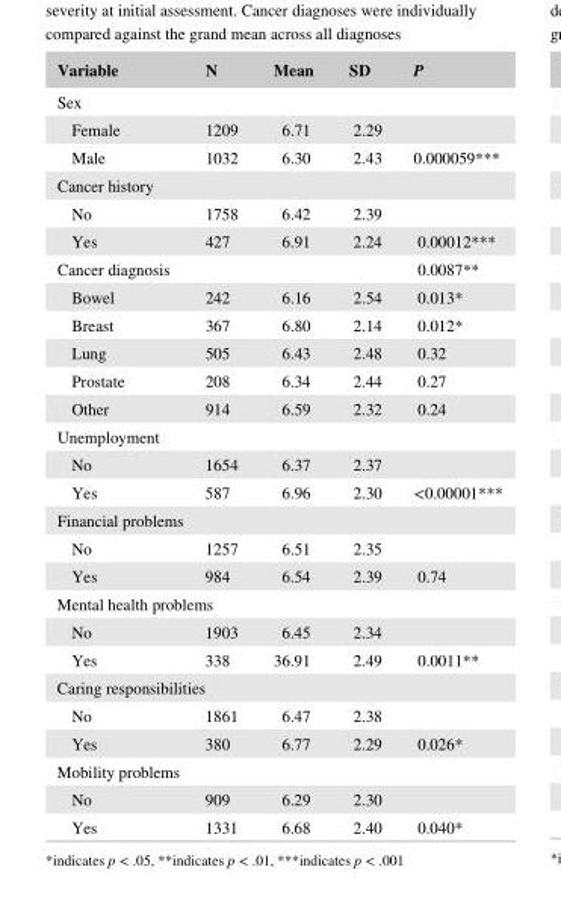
<table><thead><tr><td>Variable</td><td>N</td><td>Mean</td><td>SD</td><td>P</td></tr></thead><tbody><tr><td colspan="5">Sex</td></tr><tr><td>Female</td><td>1209</td><td>6.71</td><td>2.29</td><td></td></tr><tr><td>Male</td><td>1032</td><td>6.30</td><td>2.43</td><td>0.000059***</td></tr><tr><td colspan="5">Cancer history</td></tr><tr><td>No</td><td>1758</td><td>6.42</td><td>2.39</td><td></td></tr><tr><td>Yes</td><td>427</td><td>6.91</td><td>2.24</td><td>0.00012***</td></tr><tr><td>Cancer diagnosis</td><td></td><td></td><td></td><td>0.0087**</td></tr><tr><td>Bowel</td><td>242</td><td>6.16</td><td>2.54</td><td>0.013*</td></tr><tr><td>Breast</td><td>367</td><td>6.80</td><td>2.14</td><td>0.012*</td></tr><tr><td>Lung</td><td>505</td><td>6.43</td><td>2.48</td><td>0.32</td></tr><tr><td>Prostate</td><td>208</td><td>6.34</td><td>2.44</td><td>0.27</td></tr><tr><td>Other</td><td>914</td><td>6.59</td><td>2.32</td><td>0.24</td></tr><tr><td colspan="5">Unemployment</td></tr><tr><td>No</td><td>1654</td><td>6.37</td><td>2.37</td><td></td></tr><tr><td>Yes</td><td>587</td><td>6.96</td><td>2.30</td><td>&lt;0.00001***</td></tr><tr><td colspan="5">Financial problems</td></tr><tr><td>No</td><td>1257</td><td>6.51</td><td>2.35</td><td></td></tr><tr><td>Yes</td><td>984</td><td>6.54</td><td>2.39</td><td>0.74</td></tr><tr><td colspan="5">Mental health problems</td></tr><tr><td>No</td><td>1903</td><td>6.45</td><td>2.34</td><td></td></tr><tr><td>Yes</td><td>338</td><td>36.91</td><td>2.49</td><td>0.0011**</td></tr><tr><td colspan="5">Caring responsibilities</td></tr><tr><td>No</td><td>1861</td><td>6.47</td><td>2.38</td><td></td></tr><tr><td>Yes</td><td>380</td><td>6.77</td><td>2.29</td><td>0.026*</td></tr><tr><td colspan="5">Mobility problems</td></tr><tr><td>No</td><td>909</td><td>6.29</td><td>2.30</td><td></td></tr><tr><td>Yes</td><td>1331</td><td>6.68</td><td>2.40</td><td>0.040*</td></tr></tbody></table>